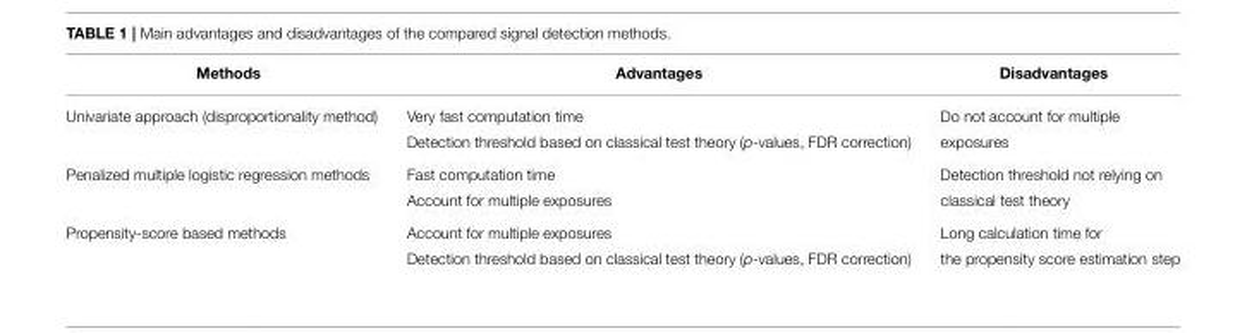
<table><thead><tr><td>Methods</td><td>Advantages</td><td>Disadvantages</td></tr></thead><tbody><tr><td rowspan="2">Univariate approach (disproportionality method)</td><td>Very fast computation time</td><td>Do not account for multiple</td></tr><tr><td>Detection threshold based on classical test theory (p-values, FDR correction)</td><td>exposures</td></tr><tr><td rowspan="2">Penalized multiple logistic regression methods</td><td>Fast computation time</td><td>Detection threshold not relying on</td></tr><tr><td>Account for multiple exposures</td><td>classical test theory</td></tr><tr><td rowspan="2">Propensity-score based methods</td><td>Account for multiple exposures</td><td>Long calculation time for</td></tr><tr><td>Detection threshold based on classical test theory (p-values, FDR correction)</td><td>the propensity score estimation step</td></tr></tbody></table>